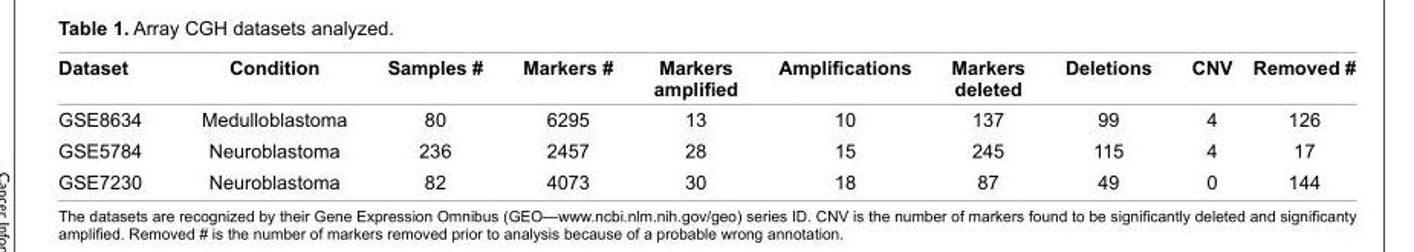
<table><thead><tr><td>Dataset</td><td>Condition</td><td>Samples #</td><td>Markers #</td><td>Markers amplifi ed</td><td>Amplifi cations</td><td>Markers deleted</td><td>Deletions</td><td>CNV</td><td>Removed #</td></tr></thead><tbody><tr><td>GSE8634</td><td>Medulloblastoma</td><td>80</td><td>6295</td><td>13</td><td>10</td><td>137</td><td>99</td><td>4</td><td>126</td></tr><tr><td>GSE5784</td><td>Neuroblastoma</td><td>236</td><td>2457</td><td>28</td><td>15</td><td>245</td><td>115</td><td>4</td><td>17</td></tr><tr><td>GSE7230</td><td>Neuroblastoma</td><td>82</td><td>4073</td><td>30</td><td>18</td><td>87</td><td>49</td><td>0</td><td>144</td></tr></tbody></table>